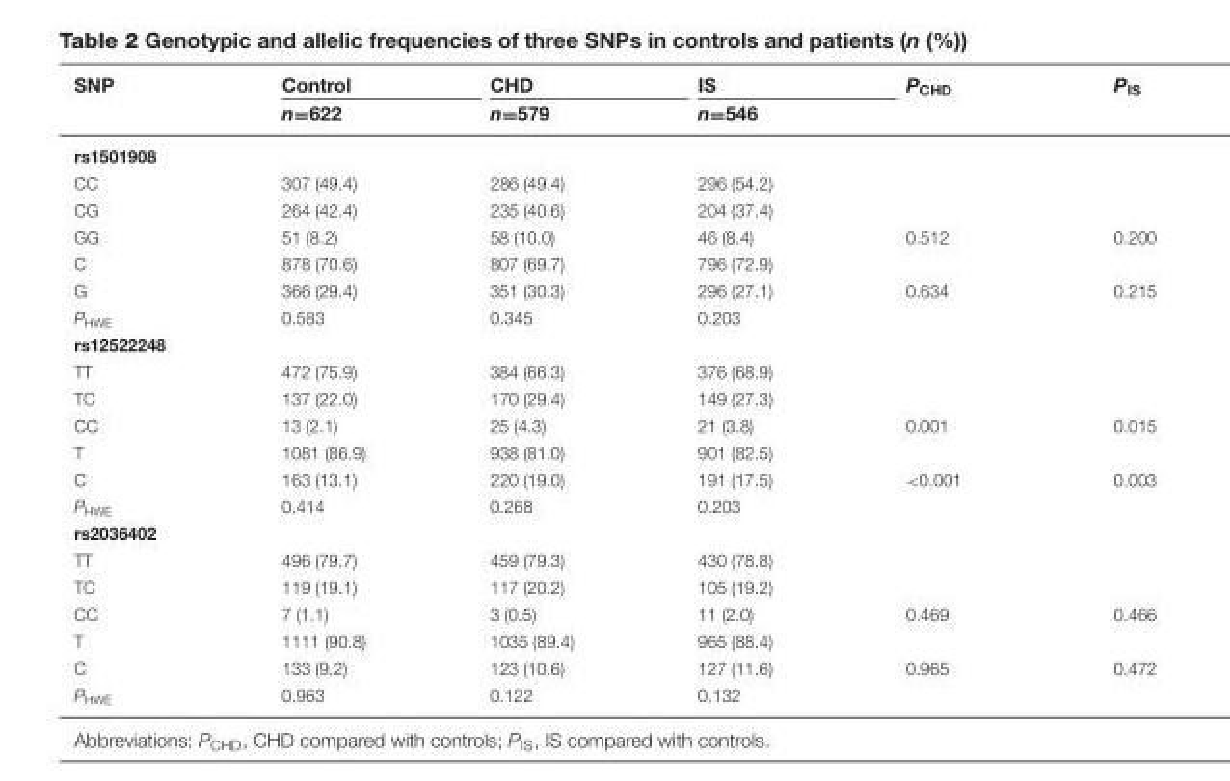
<table><thead><tr><td rowspan="2">SNP</td><td rowspan="2">Control n=622</td><td rowspan="2">CHD n=579</td><td rowspan="2">IS n=546</td><td rowspan="2">P<sub>CHD</sub></td><td rowspan="2">P<sub>IS</sub></td></tr><tr></tr></thead><tbody><tr><td colspan="6">rs1501908</td></tr><tr><td>CC</td><td>307 (49.4)</td><td>286 (49.4)</td><td>296 (54.2)</td><td></td><td></td></tr><tr><td>CG</td><td>264 (42.4)</td><td>235 (40.6)</td><td>204 (37.4)</td><td></td><td></td></tr><tr><td>GG</td><td>51 (8.2)</td><td>58 (10.0)</td><td>46 (8.4)</td><td>0.512</td><td>0.200</td></tr><tr><td>C</td><td>878 (70.6)</td><td>807 (69.7)</td><td>796 (72.9)</td><td></td><td></td></tr><tr><td>G</td><td>366 (29.4)</td><td>351 (30.3)</td><td>296 (27.1)</td><td>0.634</td><td>0.215</td></tr><tr><td>P<sub>HWE</sub></td><td>0.583</td><td>0.345</td><td>0.203</td><td></td><td></td></tr><tr><td colspan="6">rs12522248</td></tr><tr><td>TT</td><td>472 (75.9)</td><td>384 (66.3)</td><td>376 (68.9)</td><td></td><td></td></tr><tr><td>TC</td><td>137 (22.0)</td><td>170 (29.4)</td><td>149 (27.3)</td><td></td><td></td></tr><tr><td>CC</td><td>13 (2.1)</td><td>25 (4.3)</td><td>21 (3.8)</td><td>0.001</td><td>0.015</td></tr><tr><td>T</td><td>1081 (86.9)</td><td>938 (81.0)</td><td>901 (82.5)</td><td></td><td></td></tr><tr><td>C</td><td>163 (13.1)</td><td>220 (19.0)</td><td>191 (17.5)</td><td>&lt;0.001</td><td>0.003</td></tr><tr><td>P<sub>HWE</sub></td><td>0.414</td><td>0.268</td><td>0.203</td><td></td><td></td></tr><tr><td colspan="6">rs2036402</td></tr><tr><td>TT</td><td>496 (79.7)</td><td>459 (79.3)</td><td>430 (78.8)</td><td></td><td></td></tr><tr><td>TC</td><td>119 (19.1)</td><td>117 (20.2)</td><td>105 (19.2)</td><td></td><td></td></tr><tr><td>CC</td><td>7 (1.1)</td><td>3 (0.5)</td><td>11 (2.0)</td><td>0.469</td><td>0.466</td></tr><tr><td>T</td><td>1111 (90.8)</td><td>1035 (89.4)</td><td>965 (88.4)</td><td></td><td></td></tr><tr><td>C</td><td>133 (9.2)</td><td>123 (10.6)</td><td>127 (11.6)</td><td>0.965</td><td>0.472</td></tr><tr><td>P<sub>HWE</sub></td><td>0.963</td><td>0.122</td><td>0.132</td><td></td><td></td></tr></tbody></table>